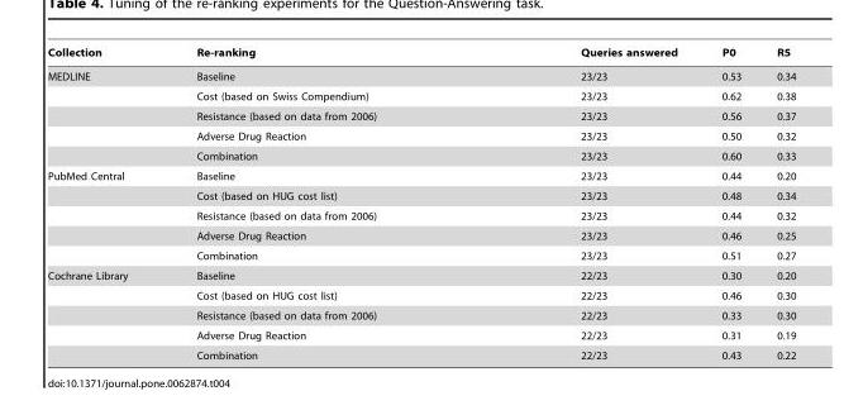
<table><thead><tr><td>Collection</td><td>Re-ranking</td><td>Queries answered</td><td>P0</td><td>R5</td></tr></thead><tbody><tr><td rowspan="5">MEDLINE</td><td>Baseline</td><td>23/23</td><td>0.53</td><td>0.34</td></tr><tr><td>Cost (based on Swiss Compendium)</td><td>23/23</td><td>0.62</td><td>0.38</td></tr><tr><td>Resistance (based on data from 2006)</td><td>23/23</td><td>0.56</td><td>0.37</td></tr><tr><td>Adverse Drug Reaction</td><td>23/23</td><td>0.50</td><td>0.32</td></tr><tr><td>Combination</td><td>23/23</td><td>0.60</td><td>0.33</td></tr><tr><td rowspan="5">PubMed Central</td><td>Baseline</td><td>23/23</td><td>0.44</td><td>0.20</td></tr><tr><td>Cost (based on HUG cost list)</td><td>23/23</td><td>0.48</td><td>0.34</td></tr><tr><td>Resistance (based on data from 2006)</td><td>23/23</td><td>0.44</td><td>0.32</td></tr><tr><td>Adverse Drug Reaction</td><td>23/23</td><td>0.46</td><td>0.25</td></tr><tr><td>Combination</td><td>23/23</td><td>0.51</td><td>0.27</td></tr><tr><td rowspan="5">Cochrane Library</td><td>Baseline</td><td>22/23</td><td>0.30</td><td>0.20</td></tr><tr><td>Cost (based on HUG cost list)</td><td>22/23</td><td>0.46</td><td>0.30</td></tr><tr><td>Resistance (based on data from 2006)</td><td>22/23</td><td>0.33</td><td>0.30</td></tr><tr><td>Adverse Drug Reaction</td><td>22/23</td><td>0.31</td><td>0.19</td></tr><tr><td>Combination</td><td>22/23</td><td>0.43</td><td>0.22</td></tr></tbody></table>